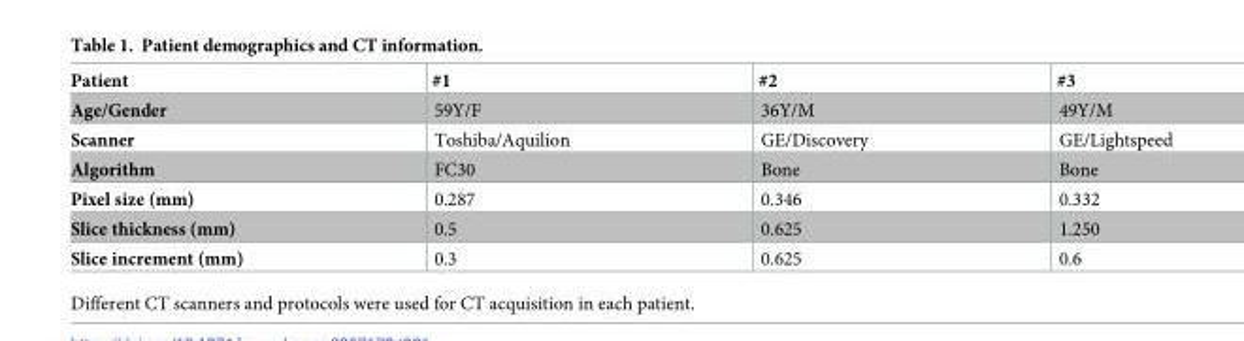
<table><thead><tr><td>Patient</td><td>#1</td><td>#2</td><td>#3</td></tr></thead><tbody><tr><td>Age/Gender</td><td>59Y/F</td><td>36Y/M</td><td>49Y/M</td></tr><tr><td>Scanner</td><td>Toshiba/Aquilion</td><td>GE/Discovery</td><td>GE/Lightspeed</td></tr><tr><td>Algorithm</td><td>FC30</td><td>Bone</td><td>Bone</td></tr><tr><td>Pixel size (mm)</td><td>0.287</td><td>0.346</td><td>0.332</td></tr><tr><td>Slice thickness (mm)</td><td>0.5</td><td>0.625</td><td>1.250</td></tr><tr><td>Slice increment (mm)</td><td>0.3</td><td>0.625</td><td>0.6</td></tr></tbody></table>